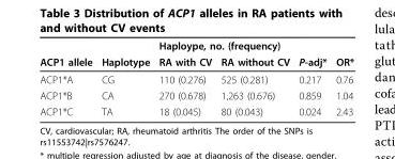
<table><thead><tr><td rowspan="2">ACP1 allele</td><td rowspan="2">Haplotype</td><td colspan="2">Haploype, no. (frequency)</td><td rowspan="2">P-adj*</td><td rowspan="2">OR*</td></tr><tr><td>RA with CV</td><td>RA without CV</td></tr></thead><tbody><tr><td>ACP1*A</td><td>CG</td><td>110 (0.276)</td><td>525 (0.281)</td><td>0.217</td><td>0.76</td></tr><tr><td>ACP1*B</td><td>CA</td><td>270 (0.678)</td><td>1,263 (0.676)</td><td>0.859</td><td>1.04</td></tr><tr><td>ACP1*C</td><td>TA</td><td>18 (0.045)</td><td>80 (0.043)</td><td>0.024</td><td>2.43</td></tr></tbody></table>